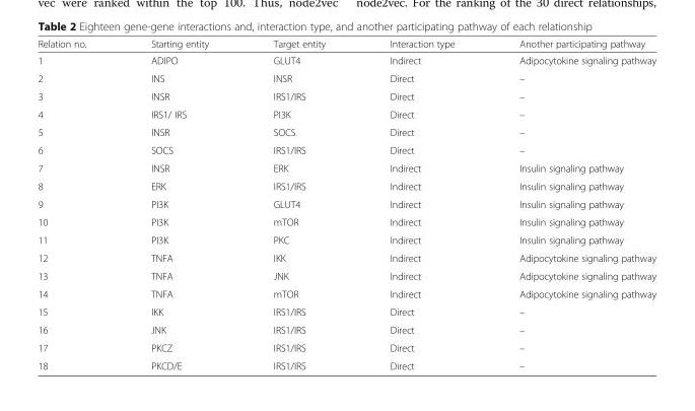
<table><thead><tr><td>Relation no.</td><td>Starting entity</td><td>Target entity</td><td>Interaction type</td><td>Another participating pathway</td></tr></thead><tbody><tr><td>1</td><td>ADIPO</td><td>GLUT4</td><td>Indirect</td><td>Adipocytokine signaling pathway</td></tr><tr><td>2</td><td>INS</td><td>INSR</td><td>Direct</td><td>–</td></tr><tr><td>3</td><td>INSR</td><td>IRS1/IRS</td><td>Direct</td><td>–</td></tr><tr><td>4</td><td>IRS1/ IRS</td><td>PI3K</td><td>Direct</td><td>–</td></tr><tr><td>5</td><td>INSR</td><td>SOCS</td><td>Direct</td><td>–</td></tr><tr><td>6</td><td>SOCS</td><td>IRS1/IRS</td><td>Direct</td><td>–</td></tr><tr><td>7</td><td>INSR</td><td>ERK</td><td>Indirect</td><td>Insulin signaling pathway</td></tr><tr><td>8</td><td>ERK</td><td>IRS1/IRS</td><td>Indirect</td><td>Insulin signaling pathway</td></tr><tr><td>9</td><td>PI3K</td><td>GLUT4</td><td>Indirect</td><td>Insulin signaling pathway</td></tr><tr><td>10</td><td>PI3K</td><td>mTOR</td><td>Indirect</td><td>Insulin signaling pathway</td></tr><tr><td>11</td><td>PI3K</td><td>PKC</td><td>Indirect</td><td>Insulin signaling pathway</td></tr><tr><td>12</td><td>TNFA</td><td>IKK</td><td>Indirect</td><td>Adipocytokine signaling pathway</td></tr><tr><td>13</td><td>TNFA</td><td>JNK</td><td>Indirect</td><td>Adipocytokine signaling pathway</td></tr><tr><td>14</td><td>TNFA</td><td>mTOR</td><td>Indirect</td><td>Adipocytokine signaling pathway</td></tr><tr><td>15</td><td>IKK</td><td>IRS1/IRS</td><td>Direct</td><td>–</td></tr><tr><td>16</td><td>JNK</td><td>IRS1/IRS</td><td>Direct</td><td>–</td></tr><tr><td>17</td><td>PKCZ</td><td>IRS1/IRS</td><td>Direct</td><td>–</td></tr><tr><td>18</td><td>PKCD/E</td><td>IRS1/IRS</td><td>Direct</td><td>–</td></tr></tbody></table>